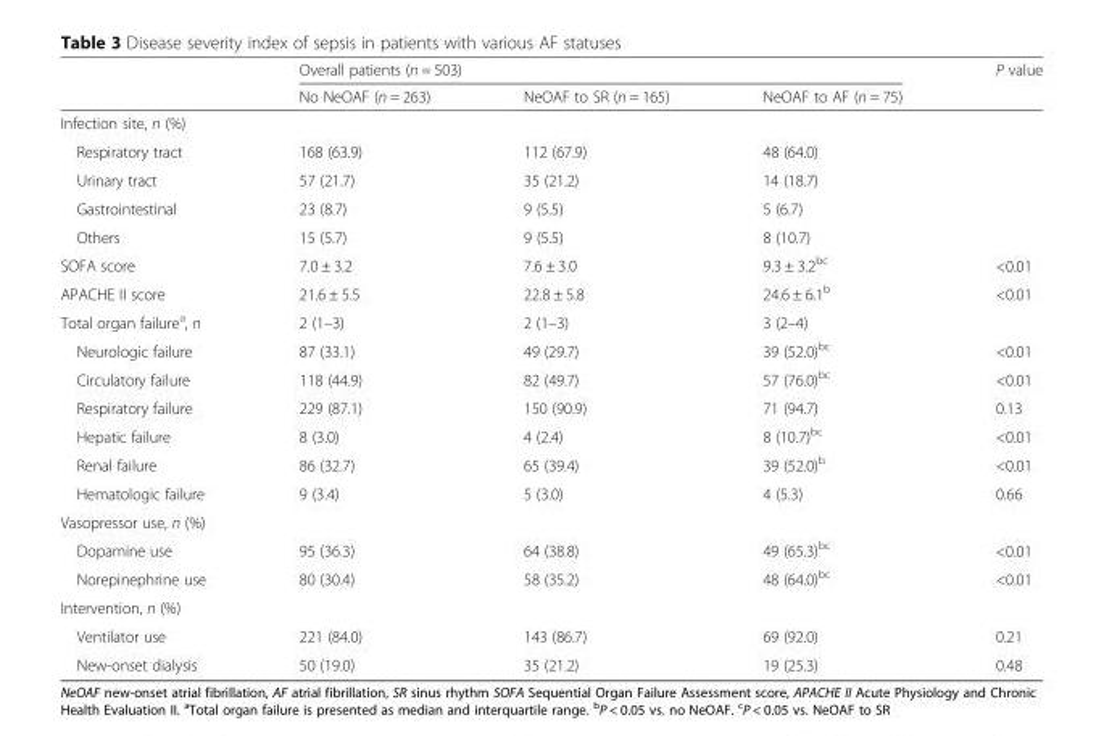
<table><thead><tr><td rowspan="2"></td><td colspan="3">Overall patients (n = 503)</td><td rowspan="2">P value</td></tr><tr><td>No NeOAF (n = 263)</td><td>NeOAF to SR (n = 165)</td><td>NeOAF to AF (n = 75)</td></tr></thead><tbody><tr><td colspan="5">Infection site, n (%)</td></tr><tr><td>Respiratory tract</td><td>168 (63.9)</td><td>112 (67.9)</td><td>48 (64.0)</td><td></td></tr><tr><td>Urinary tract</td><td>57 (21.7)</td><td>35 (21.2)</td><td>14 (18.7)</td><td></td></tr><tr><td>Gastrointestinal</td><td>23 (8.7)</td><td>9 (5.5)</td><td>5 (6.7)</td><td></td></tr><tr><td>Others</td><td>15 (5.7)</td><td>9 (5.5)</td><td>8 (10.7)</td><td></td></tr><tr><td>SOFA score</td><td>7.0 ± 3.2</td><td>7.6 ± 3.0</td><td>9.3 ± 3.2<sup>bc</sup></td><td>&lt;0.01</td></tr><tr><td>APACHE II score</td><td>21.6 ± 5.5</td><td>22.8 ± 5.8</td><td>24.6 ± 6.1<sup>b</sup></td><td>&lt;0.01</td></tr><tr><td>Total organ failure<sup>a</sup>, n</td><td>2 (1–3)</td><td>2 (1–3)</td><td>3 (2–4)</td><td></td></tr><tr><td>Neurologic failure</td><td>87 (33.1)</td><td>49 (29.7)</td><td>39 (52.0)<sup>bc</sup></td><td>&lt;0.01</td></tr><tr><td>Circulatory failure</td><td>118 (44.9)</td><td>82 (49.7)</td><td>57 (76.0)<sup>bc</sup></td><td>&lt;0.01</td></tr><tr><td>Respiratory failure</td><td>229 (87.1)</td><td>150 (90.9)</td><td>71 (94.7)</td><td>0.13</td></tr><tr><td>Hepatic failure</td><td>8 (3.0)</td><td>4 (2.4)</td><td>8 (10.7)<sup>bc</sup></td><td>&lt;0.01</td></tr><tr><td>Renal failure</td><td>86 (32.7)</td><td>65 (39.4)</td><td>39 (52.0)<sup>b</sup></td><td>&lt;0.01</td></tr><tr><td>Hematologic failure</td><td>9 (3.4)</td><td>5 (3.0)</td><td>4 (5.3)</td><td>0.66</td></tr><tr><td colspan="5">Vasopressor use, n (%)</td></tr><tr><td>Dopamine use</td><td>95 (36.3)</td><td>64 (38.8)</td><td>49 (65.3)<sup>bc</sup></td><td>&lt;0.01</td></tr><tr><td>Norepinephrine use</td><td>80 (30.4)</td><td>58 (35.2)</td><td>48 (64.0)<sup>bc</sup></td><td>&lt;0.01</td></tr><tr><td colspan="5">Intervention, n (%)</td></tr><tr><td>Ventilator use</td><td>221 (84.0)</td><td>143 (86.7)</td><td>69 (92.0)</td><td>0.21</td></tr><tr><td>New-onset dialysis</td><td>50 (19.0)</td><td>35 (21.2)</td><td>19 (25.3)</td><td>0.48</td></tr></tbody></table>